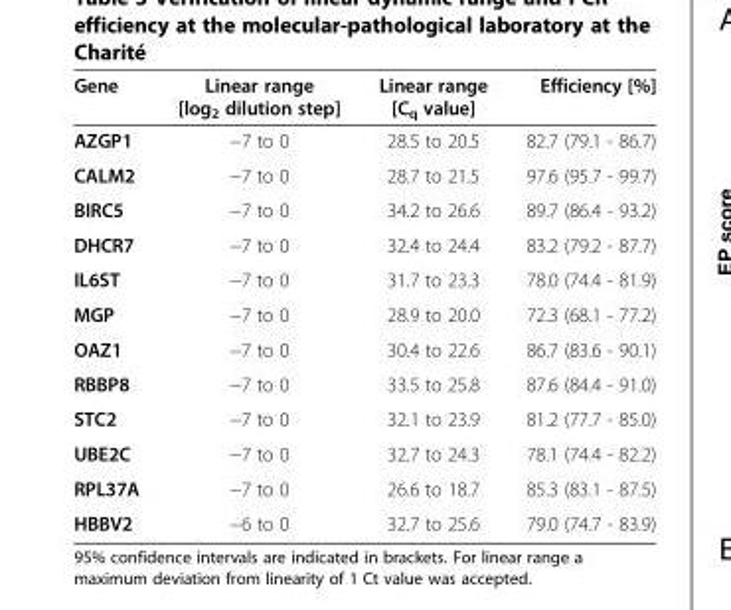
<table><thead><tr><td>Gene</td><td>Linear range [log<sub>2</sub> dilution step]</td><td>Linear range [C<sub>q</sub> value]</td><td>Efficiency [%]</td></tr></thead><tbody><tr><td>AZGP1</td><td>−7 to 0</td><td>28.5 to 20.5</td><td>82.7 (79.1 - 86.7)</td></tr><tr><td>CALM2</td><td>−7 to 0</td><td>28.7 to 21.5</td><td>97.6 (95.7 - 99.7)</td></tr><tr><td>BIRC5</td><td>−7 to 0</td><td>34.2 to 26.6</td><td>89.7 (86.4 - 93.2)</td></tr><tr><td>DHCR7</td><td>−7 to 0</td><td>32.4 to 24.4</td><td>83.2 (79.2 - 87.7)</td></tr><tr><td>IL6ST</td><td>−7 to 0</td><td>31.7 to 23.3</td><td>78.0 (74.4 - 81.9)</td></tr><tr><td>MGP</td><td>−7 to 0</td><td>28.9 to 20.0</td><td>72.3 (68.1 - 77.2)</td></tr><tr><td>OAZ1</td><td>−7 to 0</td><td>30.4 to 22.6</td><td>86.7 (83.6 - 90.1)</td></tr><tr><td>RBBP8</td><td>−7 to 0</td><td>33.5 to 25.8</td><td>87.6 (84.4 - 91.0)</td></tr><tr><td>STC2</td><td>−7 to 0</td><td>32.1 to 23.9</td><td>81.2 (77.7 - 85.0)</td></tr><tr><td>UBE2C</td><td>−7 to 0</td><td>32.7 to 24.3</td><td>78.1 (74.4 - 82.2)</td></tr><tr><td>RPL37A</td><td>−7 to 0</td><td>26.6 to 18.7</td><td>85.3 (83.1 - 87.5)</td></tr><tr><td>HBBV2</td><td>−6 to 0</td><td>32.7 to 25.6</td><td>79.0 (74.7 - 83.9)</td></tr></tbody></table>